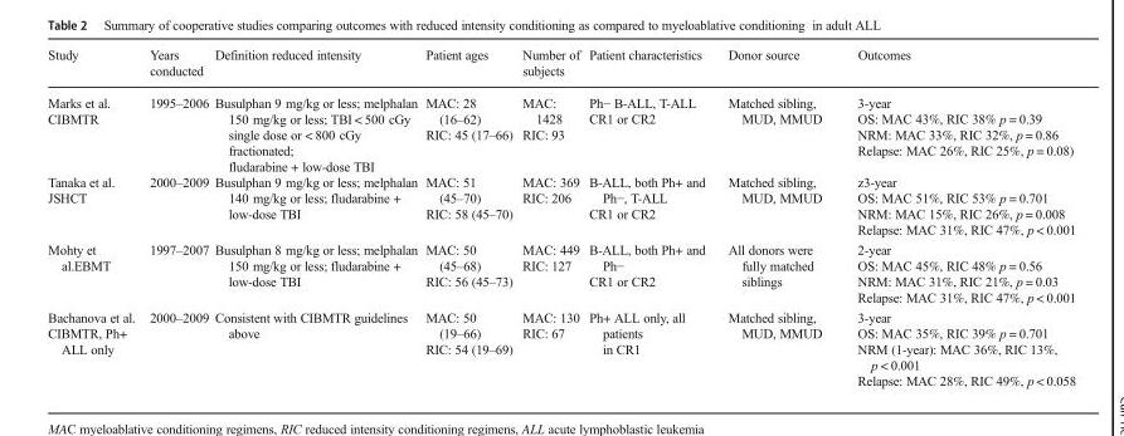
<table><thead><tr><td>Study</td><td>Years conducted</td><td>Definition reduced intensity</td><td>Patient ages</td><td>Number of subjects</td><td>Patient characteristics</td><td>Donor source</td><td>Outcomes</td></tr></thead><tbody><tr><td>Marks et al. CIBMTR</td><td>1995–2006</td><td>Busulphan 9 mg/kg or less; melphalan 150 mg/kg or less; TBI &lt; 500 cGy single dose or &lt; 800 cGy fractionated; fludarabine + low-dose TBI</td><td>MAC: 28 (16–62) RIC: 45 (17–66)</td><td>MAC: 1428 RIC: 93</td><td>Ph− B-ALL, T-ALL CR1 or CR2</td><td>Matched sibling, MUD, MMUD</td><td>3-year OS: MAC 43%, RIC 38% p = 0.39 NRM: MAC 33%, RIC 32%, p = 0.86 Relapse: MAC 26%, RIC 25%, p = 0.08)</td></tr><tr><td>Tanaka et al. JSHCT</td><td>2000–2009</td><td>Busulphan 9 mg/kg or less; melphalan 140 mg/kg or less; fludarabine + low-dose TBI</td><td>MAC: 51 (45–70) RIC: 58 (45–70)</td><td>MAC: 369 RIC: 206</td><td>B-ALL, both Ph+ and Ph−, T-ALL CR1 or CR2</td><td>Matched sibling, MUD, MMUD</td><td>z3-year OS: MAC 51%, RIC 53% p = 0.701 NRM: MAC 15%, RIC 26%, p = 0.008 Relapse: MAC 31%, RIC 47%, p &lt; 0.001</td></tr><tr><td>Mohty et al.EBMT</td><td>1997–2007</td><td>Busulphan 8 mg/kg or less; melphalan 150 mg/kg or less; fludarabine + low-dose TBI</td><td>MAC: 50 (45–68) RIC: 56 (45–73)</td><td>MAC: 449 RIC: 127</td><td>B-ALL, both Ph+ and Ph− CR1 or CR2</td><td>All donors were fully matched siblings</td><td>2-year OS: MAC 45%, RIC 48% p = 0.56 NRM: MAC 31%, RIC 21%, p = 0.03 Relapse: MAC 31%, RIC 47%, p &lt; 0.001</td></tr><tr><td>Bachanova et al. CIBMTR, Ph+ ALL only</td><td>2000–2009</td><td>Consistent with CIBMTR guidelines above</td><td>MAC: 50 (19–66) RIC: 54 (19–69)</td><td>MAC: 130 RIC: 67</td><td>Ph+ ALL only, all patients in CR1</td><td>Matched sibling, MUD, MMUD</td><td>3-year OS: MAC 35%, RIC 39% p = 0.701 NRM (1-year): MAC 36%, RIC 13%, p &lt; 0.001 Relapse: MAC 28%, RIC 49%, p &lt; 0.058</td></tr></tbody></table>